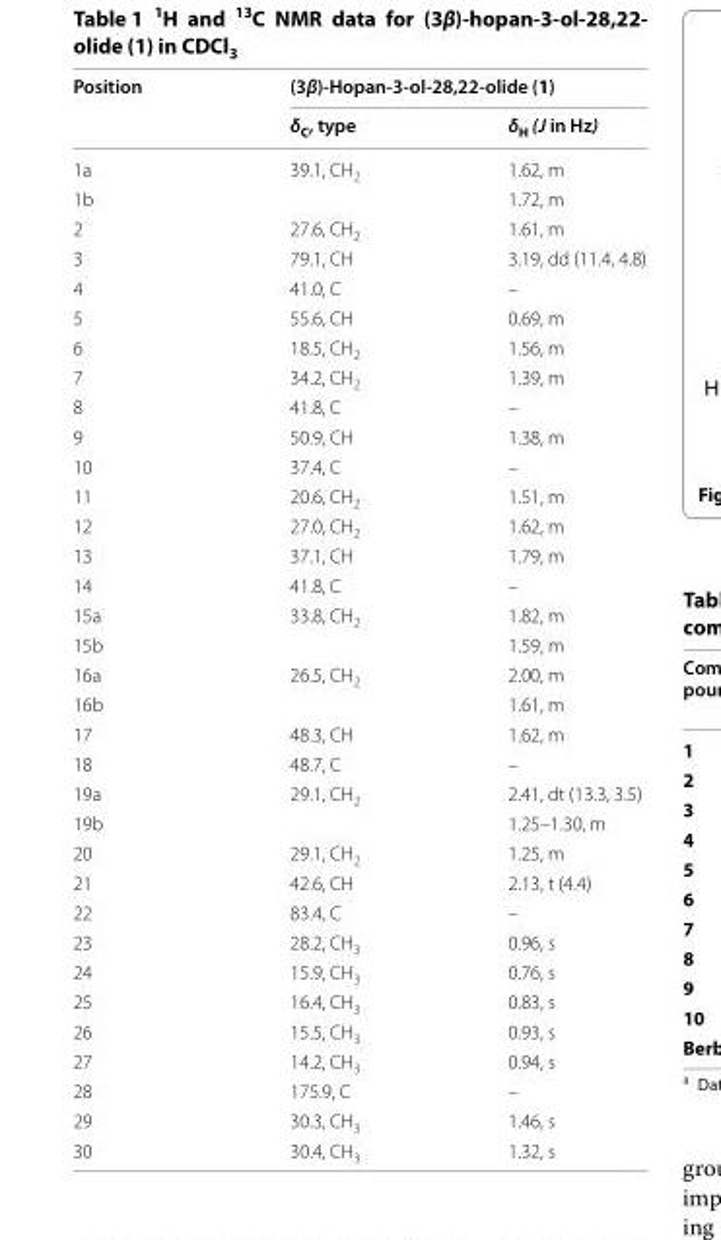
<table><thead><tr><td rowspan="2">Position</td><td colspan="2">(3β)-Hopan-3-ol-28,22-olide (1)</td></tr><tr><td>δ<sub>C</sub>, type</td><td>δ<sub>H</sub> (J in Hz)</td></tr></thead><tbody><tr><td>1a</td><td>39.1, CH<sub>2</sub></td><td>1.62, m</td></tr><tr><td>1b</td><td></td><td>1.72, m</td></tr><tr><td>2</td><td>27.6, CH<sub>2</sub></td><td>1.61, m</td></tr><tr><td>3</td><td>79.1, CH</td><td>3.19, dd (11.4, 4.8)</td></tr><tr><td>4</td><td>41.0, C</td><td>–</td></tr><tr><td>5</td><td>55.6, CH</td><td>0.69, m</td></tr><tr><td>6</td><td>18.5, CH<sub>2</sub></td><td>1.56, m</td></tr><tr><td>7</td><td>34.2, CH<sub>2</sub></td><td>1.39, m</td></tr><tr><td>8</td><td>41.8, C</td><td>–</td></tr><tr><td>9</td><td>50.9, CH</td><td>1.38, m</td></tr><tr><td>10</td><td>37.4, C</td><td>–</td></tr><tr><td>11</td><td>20.6, CH<sub>2</sub></td><td>1.51, m</td></tr><tr><td>12</td><td>27.0, CH<sub>2</sub></td><td>1.62, m</td></tr><tr><td>13</td><td>37.1, CH</td><td>1.79, m</td></tr><tr><td>14</td><td>41.8, C</td><td>–</td></tr><tr><td>15a</td><td>33.8, CH<sub>2</sub></td><td>1.82, m</td></tr><tr><td>15b</td><td></td><td>1.59, m</td></tr><tr><td>16a</td><td>26.5, CH<sub>2</sub></td><td>2.00, m</td></tr><tr><td>16b</td><td></td><td>1.61, m</td></tr><tr><td>17</td><td>48.3, CH</td><td>1.62, m</td></tr><tr><td>18</td><td>48.7, C</td><td>–</td></tr><tr><td>19a</td><td>29.1, CH<sub>2</sub></td><td>2.41, dt (13.3, 3.5)</td></tr><tr><td>19b</td><td></td><td>1.25–1.30, m</td></tr><tr><td>20</td><td>29.1, CH<sub>2</sub></td><td>1.25, m</td></tr><tr><td>21</td><td>42.6, CH</td><td>2.13, t (4.4)</td></tr><tr><td>22</td><td>83.4, C</td><td>–</td></tr><tr><td>23</td><td>28.2, CH<sub>3</sub></td><td>0.96, s</td></tr><tr><td>24</td><td>15.9, CH<sub>3</sub></td><td>0.76, s</td></tr><tr><td>25</td><td>16.4, CH<sub>3</sub></td><td>0.83, s</td></tr><tr><td>26</td><td>15.5, CH<sub>3</sub></td><td>0.93, s</td></tr><tr><td>27</td><td>14.2, CH<sub>3</sub></td><td>0.94, s</td></tr><tr><td>28</td><td>175.9, C</td><td>–</td></tr><tr><td>29</td><td>30.3, CH<sub>3</sub></td><td>1.46, s</td></tr><tr><td>30</td><td>30.4, CH<sub>3</sub></td><td>1.32, s</td></tr></tbody></table>